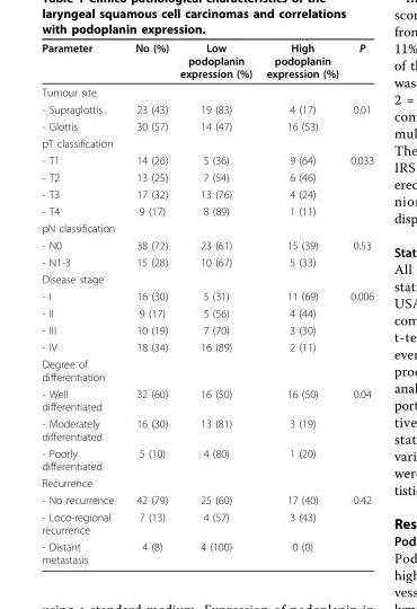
<table><thead><tr><td>Parameter</td><td>No (%)</td><td>Low podoplanin expression (%)</td><td>High podoplanin expression (%)</td><td>P</td></tr></thead><tbody><tr><td colspan="5">Tumour site</td></tr><tr><td>- Supraglottis</td><td>23 (43)</td><td>19 (83)</td><td>4 (17)</td><td>0.01</td></tr><tr><td>- Glottis</td><td>30 (57)</td><td>14 (47)</td><td>16 (53)</td><td></td></tr><tr><td colspan="5">pT classification</td></tr><tr><td>- T1</td><td>14 (26)</td><td>5 (36)</td><td>9 (64)</td><td>0.033</td></tr><tr><td>- T2</td><td>13 (25)</td><td>7 (54)</td><td>6 (46)</td><td></td></tr><tr><td>- T3</td><td>17 (32)</td><td>13 (76)</td><td>4 (24)</td><td></td></tr><tr><td>- T4</td><td>9 (17)</td><td>8 (89)</td><td>1 (11)</td><td></td></tr><tr><td colspan="5">pN classification</td></tr><tr><td>- N0</td><td>38 (72)</td><td>23 (61)</td><td>15 (39)</td><td>0.53</td></tr><tr><td>- N1-3</td><td>15 (28)</td><td>10 (67)</td><td>5 (33)</td><td></td></tr><tr><td colspan="5">Disease stage</td></tr><tr><td>- I</td><td>16 (30)</td><td>5 (31)</td><td>11 (69)</td><td>0.006</td></tr><tr><td>- II</td><td>9 (17)</td><td>5 (56)</td><td>4 (44)</td><td></td></tr><tr><td>- III</td><td>10 (19)</td><td>7 (70)</td><td>3 (30)</td><td></td></tr><tr><td>- IV</td><td>18 (34)</td><td>16 (89)</td><td>2 (11)</td><td></td></tr><tr><td colspan="5">Degree of differentiation</td></tr><tr><td>- Well differentiated</td><td>32 (60)</td><td>16 (50)</td><td>16 (50)</td><td>0.04</td></tr><tr><td>- Moderately differentiated</td><td>16 (30)</td><td>13 (81)</td><td>3 (19)</td><td></td></tr><tr><td>- Poorly differentiated</td><td>5 (10)</td><td>4 (80)</td><td>1 (20)</td><td></td></tr><tr><td colspan="5">Recurrence</td></tr><tr><td>- No recurrence</td><td>42 (79)</td><td>25 (60)</td><td>17 (40)</td><td>0.42</td></tr><tr><td>- Loco-regional recurrence</td><td>7 (13)</td><td>4 (57)</td><td>3 (43)</td><td></td></tr><tr><td>- Distant metastasis</td><td>4 (8)</td><td>4 (100)</td><td>0 (0)</td><td></td></tr></tbody></table>